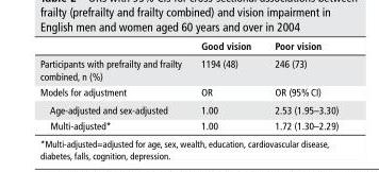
<table><thead><tr><td></td><td>Good vision</td><td>Poor vision</td></tr></thead><tbody><tr><td>Participants with prefrailty and frailty combined, n (%)</td><td>1194 (48)</td><td>246 (73)</td></tr><tr><td>Models for adjustment</td><td>OR</td><td>OR (95% CI)</td></tr><tr><td>Age-adjusted and sex-adjusted</td><td>1.00</td><td>2.53 (1.95–3.30)</td></tr><tr><td>Multi-adjusted*</td><td>1.00</td><td>1.72 (1.30–2.29)</td></tr></tbody></table>